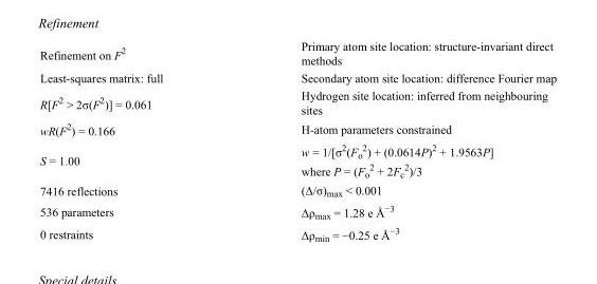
<table><tbody><tr><td>Refinement on F<sup>2</sup></td><td>Primary atom site location: structure-invariant direct methods</td></tr><tr><td>Least-squares matrix: full</td><td>Secondary atom site location: difference Fourier map</td></tr><tr><td>R[F<sup>2</sup> &gt; 2σ(F<sup>2</sup>)] = 0.061</td><td>Hydrogen site location: inferred from neighbouring sites</td></tr><tr><td>wR(F<sup>2</sup>) = 0.166</td><td>H-atom parameters constrained</td></tr><tr><td>S = 1.00</td><td>w = 1/[σ<sup>2</sup>(F<sub>o</sub> <sup>2</sup>) + (0.0614P)<sup>2</sup> + 1.9563P] where P = (F<sub>o</sub> <sup>2</sup> + 2F<sub>c</sub> <sup>2</sup>)/3</td></tr><tr><td>7416 reflections</td><td>(Δ/σ)<sub>max</sub> &lt; 0.001</td></tr><tr><td>536 parameters</td><td>Δρ<sub>max</sub> = 1.28 e Å<sup>−3</sup></td></tr><tr><td>0 restraints</td><td>Δρ<sub>min</sub> = −0.25 e Å<sup>−3</sup></td></tr></tbody></table>